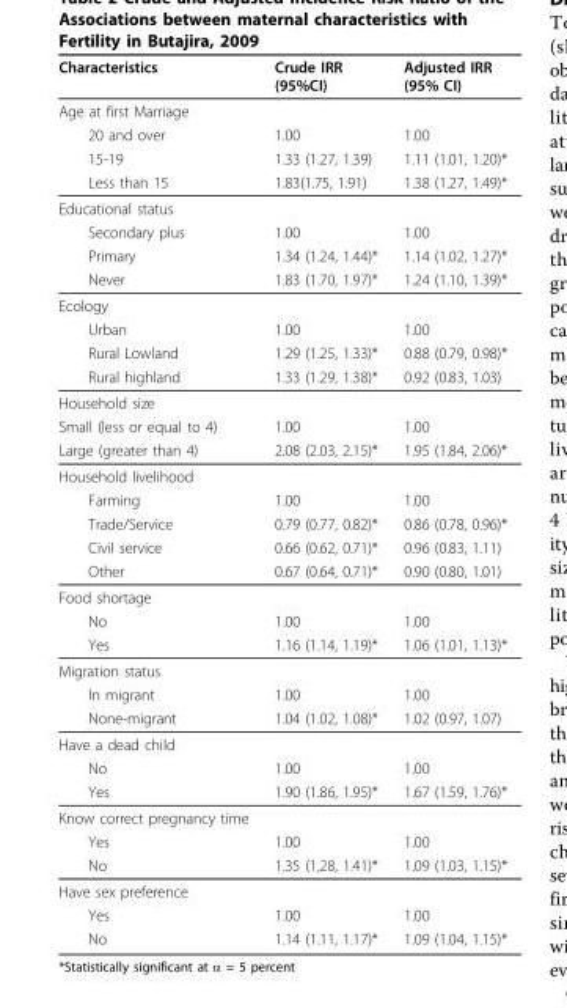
<table><thead><tr><td>Characteristics</td><td>Crude IRR (95%CI)</td><td>Adjusted IRR (95% CI)</td></tr></thead><tbody><tr><td colspan="3">Age at first Marriage</td></tr><tr><td>20 and over</td><td>1.00</td><td>1.00</td></tr><tr><td>15-19</td><td>1.33 (1.27, 1.39)</td><td>1.11 (1.01, 1.20)*</td></tr><tr><td>Less than 15</td><td>1.83(1.75, 1.91)</td><td>1.38 (1.27, 1.49)*</td></tr><tr><td colspan="3">Educational status</td></tr><tr><td>Secondary plus</td><td>1.00</td><td>1.00</td></tr><tr><td>Primary</td><td>1.34 (1.24, 1.44)*</td><td>1.14 (1.02, 1.27)*</td></tr><tr><td>Never</td><td>1.83 (1.70, 1.97)*</td><td>1.24 (1.10, 1.39)*</td></tr><tr><td colspan="3">Ecology</td></tr><tr><td>Urban</td><td>1.00</td><td>1.00</td></tr><tr><td>Rural Lowland</td><td>1.29 (1.25, 1.33)*</td><td>0.88 (0.79, 0.98)*</td></tr><tr><td>Rural highland</td><td>1.33 (1.29, 1.38)*</td><td>0.92 (0.83, 1.03)</td></tr><tr><td colspan="3">Household size</td></tr><tr><td>Small (less or equal to 4)</td><td>1.00</td><td>1.00</td></tr><tr><td>Large (greater than 4)</td><td>2.08 (2.03, 2.15)*</td><td>1.95 (1.84, 2.06)*</td></tr><tr><td colspan="3">Household livelihood</td></tr><tr><td>Farming</td><td>1.00</td><td>1.00</td></tr><tr><td>Trade/Service</td><td>0.79 (0.77, 0.82)*</td><td>0.86 (0.78, 0.96)*</td></tr><tr><td>Civil service</td><td>0.66 (0.62, 0.71)*</td><td>0.96 (0.83, 1.11)</td></tr><tr><td>Other</td><td>0.67 (0.64, 0.71)*</td><td>0.90 (0.80, 1.01)</td></tr><tr><td colspan="3">Food shortage</td></tr><tr><td>No</td><td>1.00</td><td>1.00</td></tr><tr><td>Yes</td><td>1.16 (1.14, 1.19)*</td><td>1.06 (1.01, 1.13)*</td></tr><tr><td colspan="3">Migration status</td></tr><tr><td>In migrant</td><td>1.00</td><td>1.00</td></tr><tr><td>None-migrant</td><td>1.04 (1.02, 1.08)*</td><td>1.02 (0.97, 1.07)</td></tr><tr><td colspan="3">Have a dead child</td></tr><tr><td>No</td><td>1.00</td><td>1.00</td></tr><tr><td>Yes</td><td>1.90 (1.86, 1.95)*</td><td>1.67 (1.59, 1.76)*</td></tr><tr><td colspan="3">Know correct pregnancy time</td></tr><tr><td>Yes</td><td>1.00</td><td>1.00</td></tr><tr><td>No</td><td>1.35 (1,28, 1.41)*</td><td>1.09 (1.03, 1.15)*</td></tr><tr><td colspan="3">Have sex preference</td></tr><tr><td>Yes</td><td>1.00</td><td>1.00</td></tr><tr><td>No</td><td>1.14 (1.11, 1.17)*</td><td>1.09 (1.04, 1.15)*</td></tr></tbody></table>